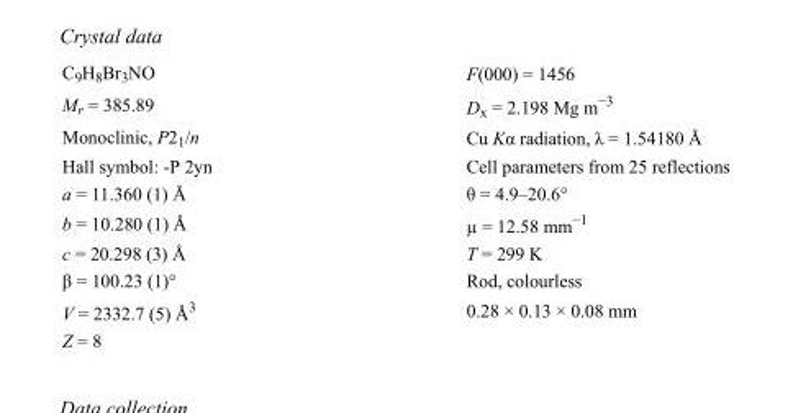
<table><tbody><tr><td>C<sub>9</sub>H<sub>8</sub>Br<sub>3</sub>NO</td><td>F(000) = 1456</td></tr><tr><td>M<sub>r</sub> = 385.89</td><td>D<sub>x</sub> = 2.198 Mg m<sup>−3</sup></td></tr><tr><td>Monoclinic, P2<sub>1</sub>/n</td><td>Cu Kα radiation, λ = 1.54180 Å</td></tr><tr><td>Hall symbol: -P 2yn</td><td>Cell parameters from 25 reflections</td></tr><tr><td>a = 11.360 (1) Å</td><td>θ = 4.9–20.6°</td></tr><tr><td>b = 10.280 (1) Å</td><td>µ = 12.58 mm<sup>−1</sup></td></tr><tr><td>c = 20.298 (3) Å</td><td>T = 299 K</td></tr><tr><td>β = 100.23 (1)°</td><td>Rod, colourless</td></tr><tr><td>V = 2332.7 (5) Å<sup>3</sup></td><td>0.28 × 0.13 × 0.08 mm</td></tr><tr><td>Z = 8</td><td></td></tr></tbody></table>